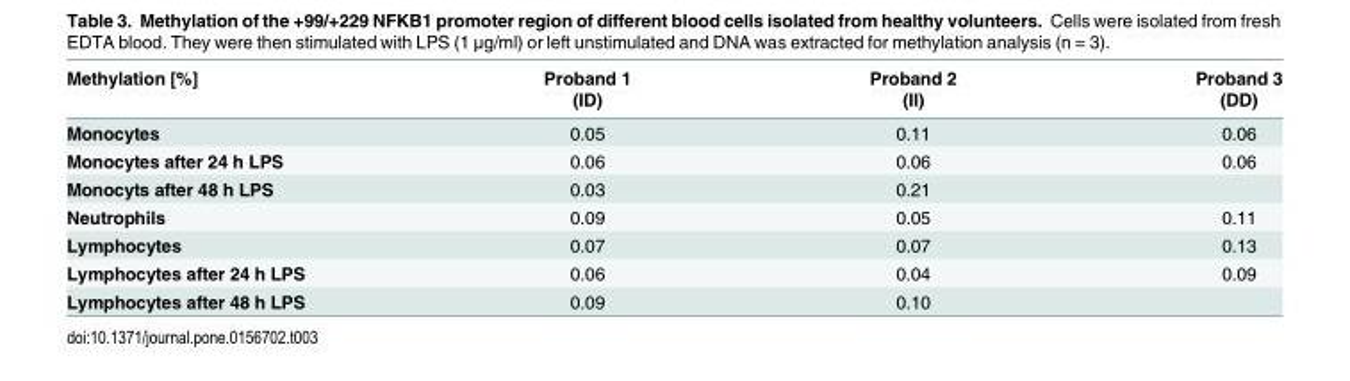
<table><thead><tr><td rowspan="2">Methylation [%]</td><td rowspan="2">Proband 1 (ID)</td><td rowspan="2">Proband 2 (II)</td><td rowspan="2">Proband 3 (DD)</td></tr><tr></tr></thead><tbody><tr><td>Monocytes</td><td>0.05</td><td>0.11</td><td>0.06</td></tr><tr><td>Monocytes after 24 h LPS</td><td>0.06</td><td>0.06</td><td>0.06</td></tr><tr><td>Monocyts after 48 h LPS</td><td>0.03</td><td>0.21</td><td></td></tr><tr><td>Neutrophils</td><td>0.09</td><td>0.05</td><td>0.11</td></tr><tr><td>Lymphocytes</td><td>0.07</td><td>0.07</td><td>0.13</td></tr><tr><td>Lymphocytes after 24 h LPS</td><td>0.06</td><td>0.04</td><td>0.09</td></tr><tr><td>Lymphocytes after 48 h LPS</td><td>0.09</td><td>0.10</td><td></td></tr></tbody></table>